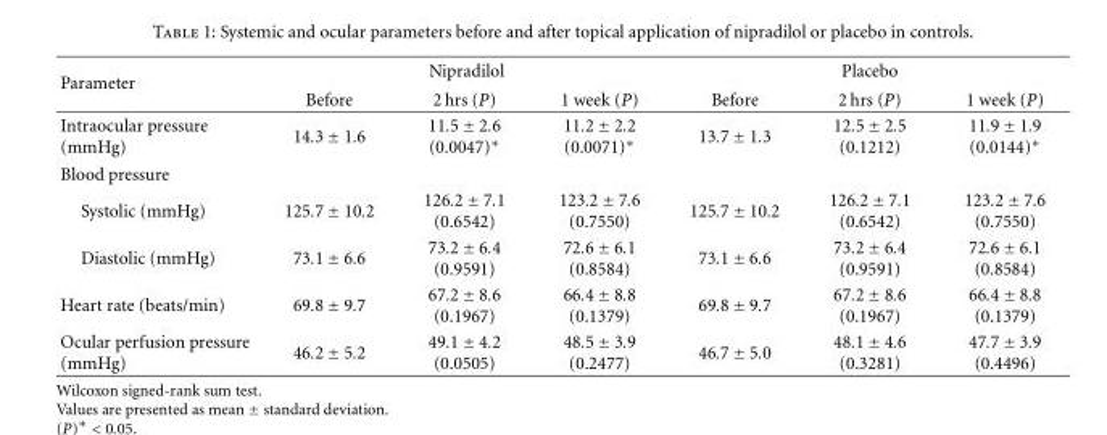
<table><thead><tr><td rowspan="2">Parameter</td><td colspan="3">Nipradilol</td><td colspan="3">Placebo</td></tr><tr><td>Before</td><td>2 hrs (P)</td><td>1 week (P)</td><td>Before</td><td>2 hrs (P)</td><td>1 week (P)</td></tr></thead><tbody><tr><td>Intraocular pressure (mmHg)</td><td>14.3 ± 1.6</td><td>11.5 ± 2.6 (0.0047)∗</td><td>11.2 ± 2.2 (0.0071)∗</td><td>13.7 ± 1.3</td><td>12.5 ± 2.5 (0.1212)</td><td>11.9 ± 1.9 (0.0144)∗</td></tr><tr><td colspan="7">Blood pressure</td></tr><tr><td>Systolic (mmHg)</td><td>125.7 ± 10.2</td><td>126.2 ± 7.1 (0.6542)</td><td>123.2 ± 7.6 (0.7550)</td><td>125.7 ± 10.2</td><td>126.2 ± 7.1 (0.6542)</td><td>123.2 ± 7.6 (0.7550)</td></tr><tr><td>Diastolic (mmHg)</td><td>73.1 ± 6.6</td><td>73.2 ± 6.4 (0.9591)</td><td>72.6 ± 6.1 (0.8584)</td><td>73.1 ± 6.6</td><td>73.2 ± 6.4 (0.9591)</td><td>72.6 ± 6.1 (0.8584)</td></tr><tr><td>Heart rate (beats/min)</td><td>69.8 ± 9.7</td><td>67.2 ± 8.6 (0.1967)</td><td>66.4 ± 8.8 (0.1379)</td><td>69.8 ± 9.7</td><td>67.2 ± 8.6 (0.1967)</td><td>66.4 ± 8.8 (0.1379)</td></tr><tr><td>Ocular perfusion pressure (mmHg)</td><td>46.2 ± 5.2</td><td>49.1 ± 4.2 (0.0505)</td><td>48.5 ± 3.9 (0.2477)</td><td>46.7 ± 5.0</td><td>48.1 ± 4.6 (0.3281)</td><td>47.7 ± 3.9 (0.4496)</td></tr></tbody></table>